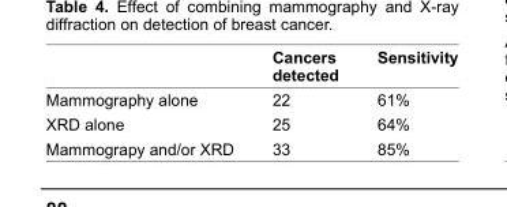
<table><thead><tr><td></td><td>cancers detected</td><td>sensitivity</td></tr></thead><tbody><tr><td>Mammography alone</td><td>22</td><td>61%</td></tr><tr><td>XRD alone</td><td>25</td><td>64%</td></tr><tr><td>Mammograpy and/or XRD</td><td>33</td><td>85%</td></tr></tbody></table>